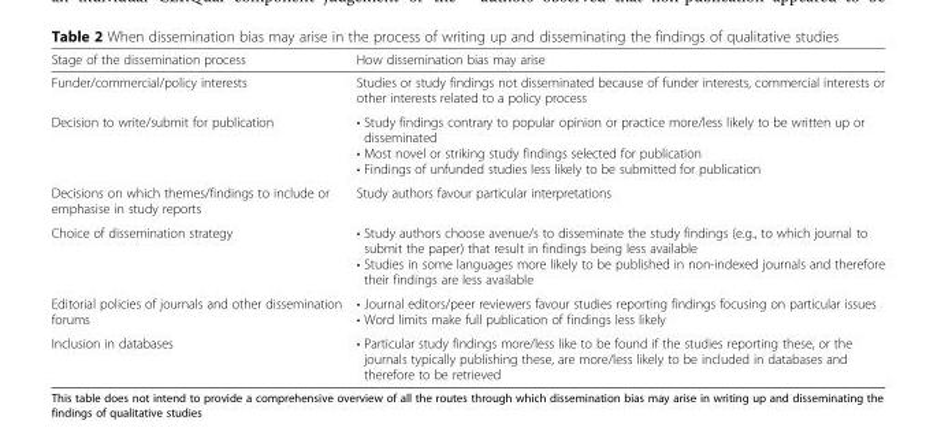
<table><thead><tr><td>Stage of the dissemination process</td><td>How dissemination bias may arise</td></tr></thead><tbody><tr><td>Funder/commercial/policy interests</td><td>Studies or study findings not disseminated because of funder interests, commercial interests or other interests related to a policy process</td></tr><tr><td>Decision to write/submit for publication</td><td>• Study findings contrary to popular opinion or practice more/less likely to be written up or disseminated • Most novel or striking study findings selected for publication • Findings of unfunded studies less likely to be submitted for publication</td></tr><tr><td>Decisions on which themes/findings to include or emphasise in study reports</td><td>Study authors favour particular interpretations</td></tr><tr><td>Choice of dissemination strategy</td><td>• Study authors choose avenue/s to disseminate the study findings (e.g., to which journal to submit the paper) that result in findings being less available • Studies in some languages more likely to be published in non-indexed journals and therefore their findings are less available</td></tr><tr><td>Editorial policies of journals and other dissemination forums</td><td>• Journal editors/peer reviewers favour studies reporting findings focusing on particular issues • Word limits make full publication of findings less likely</td></tr><tr><td>Inclusion in databases</td><td>• Particular study findings more/less like to be found if the studies reporting these, or the journals typically publishing these, are more/less likely to be included in databases and therefore to be retrieved</td></tr></tbody></table>